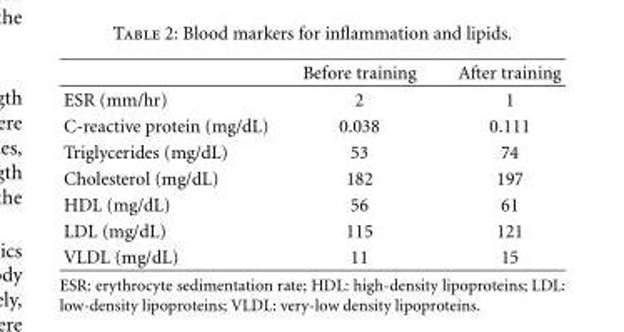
<table><thead><tr><td></td><td>Before training</td><td>After training</td></tr></thead><tbody><tr><td>ESR (mm/hr)</td><td>2</td><td>1</td></tr><tr><td>C-reactive protein (mg/dL)</td><td>0.038</td><td>0.111</td></tr><tr><td>Triglycerides (mg/dL)</td><td>53</td><td>74</td></tr><tr><td>Cholesterol (mg/dL)</td><td>182</td><td>197</td></tr><tr><td>HDL (mg/dL)</td><td>56</td><td>61</td></tr><tr><td>LDL (mg/dL)</td><td>115</td><td>121</td></tr><tr><td>VLDL (mg/dL)</td><td>11</td><td>15</td></tr></tbody></table>